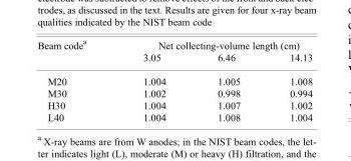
<table><thead><tr><td rowspan="2">Beam code<sup>a</sup></td><td colspan="3">Net collecting-volume length (cm)</td></tr><tr><td>3.05</td><td>6.46</td><td>14.13</td></tr></thead><tbody><tr><td>M20</td><td>1.004</td><td>1.005</td><td>1.008</td></tr><tr><td>M30</td><td>1.002</td><td>0.998</td><td>0.994</td></tr><tr><td>H30</td><td>1.004</td><td>1.007</td><td>1.002</td></tr><tr><td>L40</td><td>1.004</td><td>1.008</td><td>1.004</td></tr></tbody></table>